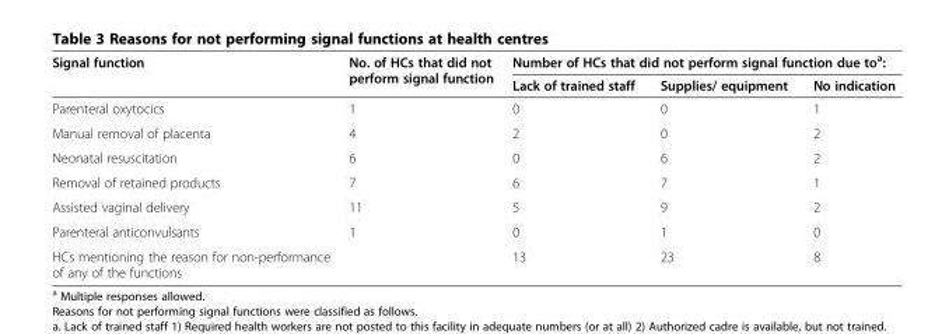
<table><thead><tr><td rowspan="2">Signal function</td><td rowspan="2">No. of HCs that did not perform signal function</td><td colspan="3">Number of HCs that did not perform signal function due to<sup>a</sup>:</td></tr><tr><td>Lack of trained staff</td><td>Supplies/ equipment</td><td>No indication</td></tr></thead><tbody><tr><td>Parenteral oxytocics</td><td>1</td><td>0</td><td>0</td><td>1</td></tr><tr><td>Manual removal of placenta</td><td>4</td><td>2</td><td>0</td><td>2</td></tr><tr><td>Neonatal resuscitation</td><td>6</td><td>0</td><td>6</td><td>2</td></tr><tr><td>Removal of retained products</td><td>7</td><td>6</td><td>7</td><td>1</td></tr><tr><td>Assisted vaginal delivery</td><td>11</td><td>5</td><td>9</td><td>2</td></tr><tr><td>Parenteral anticonvulsants</td><td>1</td><td>0</td><td>1</td><td>0</td></tr><tr><td>HCs mentioning the reason for non-performance of any of the functions</td><td></td><td>13</td><td>23</td><td>8</td></tr></tbody></table>